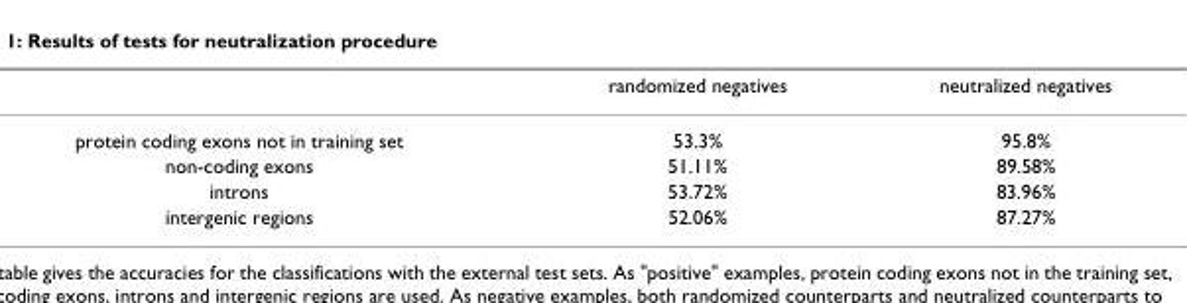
<table><thead><tr><td></td><td>randomized negatives</td><td>neutralized negatives</td></tr></thead><tbody><tr><td>protein coding exons not in training set</td><td>53.3%</td><td>95.8%</td></tr><tr><td>non-coding exons</td><td>51.11%</td><td>89.58%</td></tr><tr><td>introns</td><td>53.72%</td><td>83.96%</td></tr><tr><td>intergenic regions</td><td>52.06%</td><td>87.27%</td></tr></tbody></table>